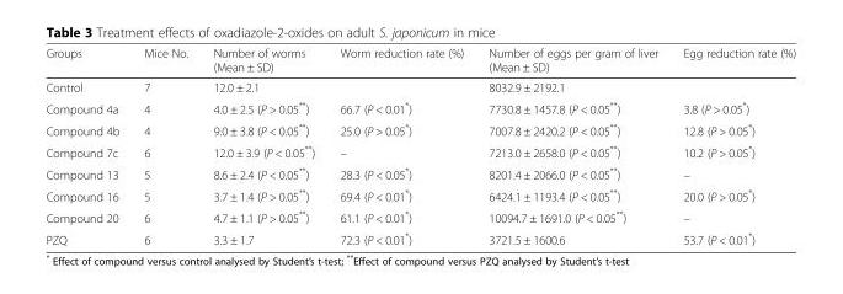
<table><thead><tr><td>Groups</td><td>Mice No.</td><td>Number of worms (Mean ± SD)</td><td>Worm reduction rate (%)</td><td>Number of eggs per gram of liver (Mean ± SD)</td><td>Egg reduction rate (%)</td></tr></thead><tbody><tr><td>Control</td><td>7</td><td>12.0 ± 2.1</td><td></td><td>8032.9 ± 2192.1</td><td></td></tr><tr><td>Compound 4a</td><td>4</td><td>4.0 ± 2.5 (P &gt; 0.05**)</td><td>66.7 (P &lt; 0.01*)</td><td>7730.8 ± 1457.8 (P &lt; 0.05**)</td><td>3.8 (P &gt; 0.05*)</td></tr><tr><td>Compound 4b</td><td>4</td><td>9.0 ± 3.8 (P &lt; 0.05**)</td><td>25.0 (P &gt; 0.05*)</td><td>7007.8 ± 2420.2 (P &lt; 0.05**)</td><td>12.8 (P &gt; 0.05*)</td></tr><tr><td>Compound 7c</td><td>6</td><td>12.0 ± 3.9 (P &lt; 0.05**)</td><td>–</td><td>7213.0 ± 2658.0 (P &lt; 0.05**)</td><td>10.2 (P &gt; 0.05*)</td></tr><tr><td>Compound 13</td><td>5</td><td>8.6 ± 2.4 (P &lt; 0.05**)</td><td>28.3 (P &lt; 0.05*)</td><td>8201.4 ± 2066.0 (P &lt; 0.05**)</td><td>–</td></tr><tr><td>Compound 16</td><td>5</td><td>3.7 ± 1.4 (P &gt; 0.05**)</td><td>69.4 (P &lt; 0.01*)</td><td>6424.1 ± 1193.4 (P &lt; 0.05**)</td><td>20.0 (P &gt; 0.05*)</td></tr><tr><td>Compound 20</td><td>6</td><td>4.7 ± 1.1 (P &gt; 0.05**)</td><td>61.1 (P &lt; 0.01*)</td><td>10094.7 ± 1691.0 (P &lt; 0.05**)</td><td>–</td></tr><tr><td>PZQ</td><td>6</td><td>3.3 ± 1.7</td><td>72.3 (P &lt; 0.01*)</td><td>3721.5 ± 1600.6</td><td>53.7 (P &lt; 0.01*)</td></tr></tbody></table>